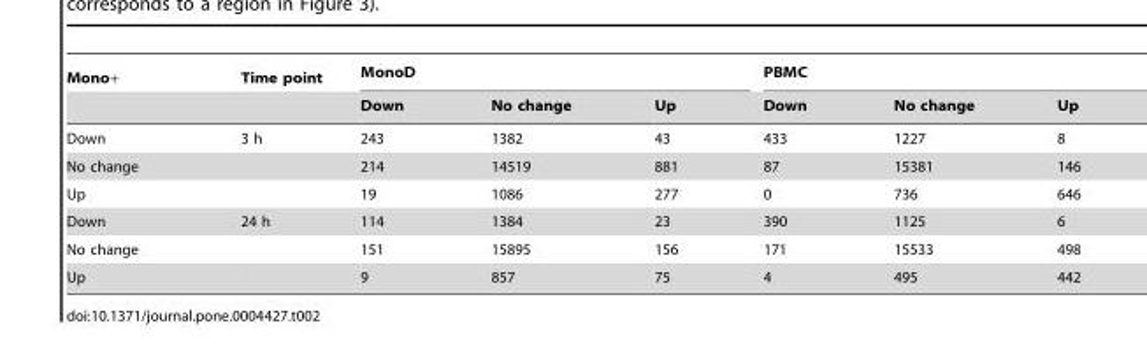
<table><thead><tr><td rowspan="2">Mono+</td><td rowspan="2">Time point</td><td colspan="3">MonoD</td><td colspan="3">PBMC</td></tr><tr><td>Down</td><td>No change</td><td>Up</td><td>Down</td><td>No change</td><td>Up</td></tr></thead><tbody><tr><td>Down</td><td>3 h</td><td>243</td><td>1382</td><td>43</td><td>433</td><td>1227</td><td>8</td></tr><tr><td>No change</td><td></td><td>214</td><td>14519</td><td>881</td><td>87</td><td>15381</td><td>146</td></tr><tr><td>Up</td><td></td><td>19</td><td>1086</td><td>277</td><td>0</td><td>736</td><td>646</td></tr><tr><td>Down</td><td>24 h</td><td>114</td><td>1384</td><td>23</td><td>390</td><td>1125</td><td>6</td></tr><tr><td>No change</td><td></td><td>151</td><td>15895</td><td>156</td><td>171</td><td>15533</td><td>498</td></tr><tr><td>Up</td><td></td><td>9</td><td>857</td><td>75</td><td>4</td><td>495</td><td>442</td></tr></tbody></table>